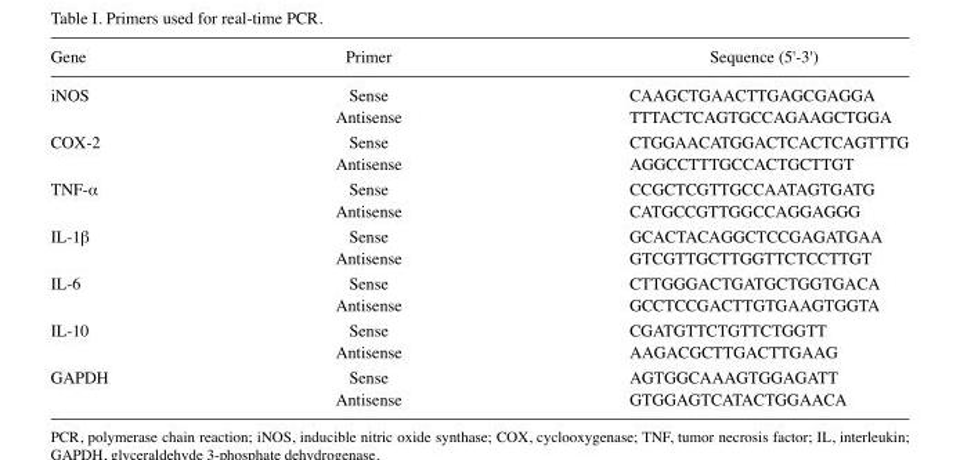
<table><thead><tr><td>Gene</td><td>Primer</td><td>Sequence (5&#x27;-3&#x27;)</td></tr></thead><tbody><tr><td rowspan="2">iNOS</td><td>Sense</td><td>CAAGCTGAACTTGAGCGAGGA</td></tr><tr><td>Antisense</td><td>TTTACTCAGTGCCAGAAGCTGGA</td></tr><tr><td rowspan="2">COX-2</td><td>Sense</td><td>CTGGAACATGGACTCACTCAGTTTG</td></tr><tr><td>Antisense</td><td>AGGCCTTTGCCACTGCTTGT</td></tr><tr><td rowspan="2">TNF-α</td><td>Sense</td><td>CCGCTCGTTGCCAATAGTGATG</td></tr><tr><td>Antisense</td><td>CATGCCGTTGGCCAGGAGGG</td></tr><tr><td rowspan="2">IL-1β</td><td>Sense</td><td>GCACTACAGGCTCCGAGATGAA</td></tr><tr><td>Antisense</td><td>GTCGTTGCTTGGTTCTCCTTGT</td></tr><tr><td rowspan="2">IL-6</td><td>Sense</td><td>CTTGGGACTGATGCTGGTGACA</td></tr><tr><td>Antisense</td><td>GCCTCCGACTTGTGAAGTGGTA</td></tr><tr><td rowspan="2">IL-10</td><td>Sense</td><td>CGATGTTCTGTTCTGGTT</td></tr><tr><td>Antisense</td><td>AAGACGCTTGACTTGAAG</td></tr><tr><td rowspan="2">GAPDH</td><td>Sense</td><td>AGTGGCAAAGTGGAGATT</td></tr><tr><td>Antisense</td><td>GTGGAGTCATACTGGAACA</td></tr></tbody></table>